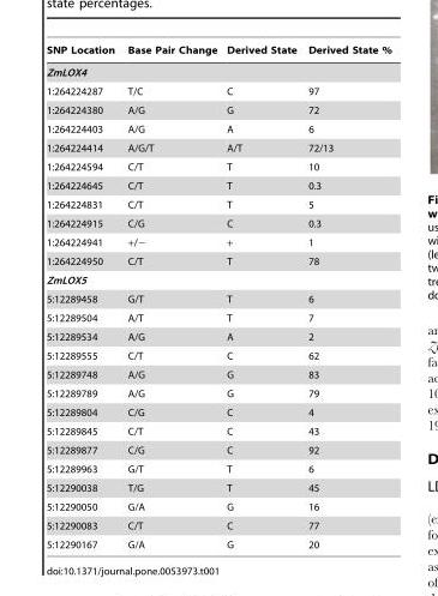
<table><thead><tr><td>SNP Location</td><td>Base Pair Change</td><td>Derived State</td><td>Derived State %</td></tr></thead><tbody><tr><td colspan="4">ZmLOX4</td></tr><tr><td>1:264224287</td><td>T/C</td><td>C</td><td>97</td></tr><tr><td>1:264224380</td><td>A/G</td><td>G</td><td>72</td></tr><tr><td>1:264224403</td><td>A/G</td><td>A</td><td>6</td></tr><tr><td>1:264224414</td><td>A/G/T</td><td>A/T</td><td>72/13</td></tr><tr><td>1:264224594</td><td>C/T</td><td>T</td><td>10</td></tr><tr><td>1:264224645</td><td>C/T</td><td>T</td><td>0.3</td></tr><tr><td>1:264224831</td><td>C/T</td><td>T</td><td>5</td></tr><tr><td>1:264224915</td><td>C/G</td><td>C</td><td>0.3</td></tr><tr><td>1:264224941</td><td>+/−</td><td>+</td><td>1</td></tr><tr><td>1:264224950</td><td>C/T</td><td>T</td><td>78</td></tr><tr><td colspan="4">ZmLOX5</td></tr><tr><td>5:12289458</td><td>G/T</td><td>T</td><td>6</td></tr><tr><td>5:12289504</td><td>A/T</td><td>T</td><td>7</td></tr><tr><td>5:12289534</td><td>A/G</td><td>A</td><td>2</td></tr><tr><td>5:12289555</td><td>C/T</td><td>C</td><td>62</td></tr><tr><td>5:12289748</td><td>A/G</td><td>G</td><td>83</td></tr><tr><td>5:12289789</td><td>A/G</td><td>G</td><td>79</td></tr><tr><td>5:12289804</td><td>C/G</td><td>C</td><td>4</td></tr><tr><td>5:12289845</td><td>C/T</td><td>C</td><td>43</td></tr><tr><td>5:12289877</td><td>C/G</td><td>C</td><td>92</td></tr><tr><td>5:12289963</td><td>G/T</td><td>T</td><td>6</td></tr><tr><td>5:12290038</td><td>T/G</td><td>T</td><td>45</td></tr><tr><td>5:12290050</td><td>G/A</td><td>G</td><td>16</td></tr><tr><td>5:12290083</td><td>C/T</td><td>C</td><td>77</td></tr><tr><td>5:12290167</td><td>G/A</td><td>G</td><td>20</td></tr></tbody></table>